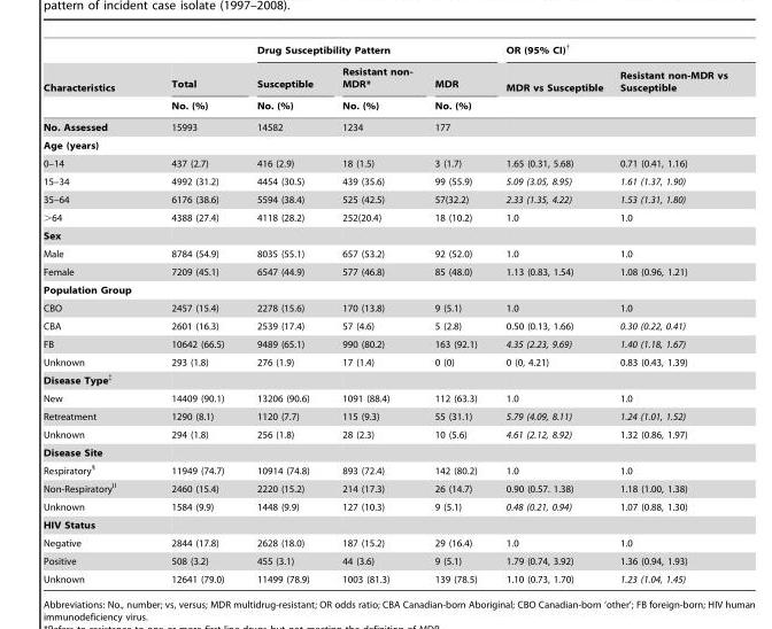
<table><thead><tr><td rowspan="3">Characteristics</td><td rowspan="3">Total No. (%)</td><td colspan="3">Drug Susceptibility Pattern</td><td colspan="2">OR (95% CI)†</td></tr><tr><td rowspan="2">Susceptible No. (%)</td><td rowspan="2">Resistant non- MDR* No. (%)</td><td rowspan="2">MDR No. (%)</td><td rowspan="2">MDR vs Susceptible</td><td rowspan="2">Resistant non-MDR vs Susceptible</td></tr><tr></tr></thead><tbody><tr><td>No. Assessed</td><td>15993</td><td>14582</td><td>1234</td><td>177</td><td></td><td></td></tr><tr><td colspan="7">Age (years)</td></tr><tr><td>0–14</td><td>437 (2.7)</td><td>416 (2.9)</td><td>18 (1.5)</td><td>3 (1.7)</td><td>1.65 (0.31, 5.68)</td><td>0.71 (0.41, 1.16)</td></tr><tr><td>15–34</td><td>4992 (31.2)</td><td>4454 (30.5)</td><td>439 (35.6)</td><td>99 (55.9)</td><td>5.09 (3.05, 8.95)</td><td>1.61 (1.37, 1.90)</td></tr><tr><td>35–64</td><td>6176 (38.6)</td><td>5594 (38.4)</td><td>525 (42.5)</td><td>57(32.2)</td><td>2.33 (1.35, 4.22)</td><td>1.53 (1.31, 1.80)</td></tr><tr><td>&gt;64</td><td>4388 (27.4)</td><td>4118 (28.2)</td><td>252(20.4)</td><td>18 (10.2)</td><td>1.0</td><td>1.0</td></tr><tr><td colspan="7">Sex</td></tr><tr><td>Male</td><td>8784 (54.9)</td><td>8035 (55.1)</td><td>657 (53.2)</td><td>92 (52.0)</td><td>1.0</td><td>1.0</td></tr><tr><td>Female</td><td>7209 (45.1)</td><td>6547 (44.9)</td><td>577 (46.8)</td><td>85 (48.0)</td><td>1.13 (0.83, 1.54)</td><td>1.08 (0.96, 1.21)</td></tr><tr><td colspan="7">Population Group</td></tr><tr><td>CBO</td><td>2457 (15.4)</td><td>2278 (15.6)</td><td>170 (13.8)</td><td>9 (5.1)</td><td>1.0</td><td>1.0</td></tr><tr><td>CBA</td><td>2601 (16.3)</td><td>2539 (17.4)</td><td>57 (4.6)</td><td>5 (2.8)</td><td>0.50 (0.13, 1.66)</td><td>0.30 (0.22, 0.41)</td></tr><tr><td>FB</td><td>10642 (66.5)</td><td>9489 (65.1)</td><td>990 (80.2)</td><td>163 (92.1)</td><td>4.35 (2.23, 9.69)</td><td>1.40 (1.18, 1.67)</td></tr><tr><td>Unknown</td><td>293 (1.8)</td><td>276 (1.9)</td><td>17 (1.4)</td><td>0 (0)</td><td>0 (0, 4.21)</td><td>0.83 (0.43, 1.39)</td></tr><tr><td colspan="7">Disease Type‡</td></tr><tr><td>New</td><td>14409 (90.1)</td><td>13206 (90.6)</td><td>1091 (88.4)</td><td>112 (63.3)</td><td>1.0</td><td>1.0</td></tr><tr><td>Retreatment</td><td>1290 (8.1)</td><td>1120 (7.7)</td><td>115 (9.3)</td><td>55 (31.1)</td><td>5.79 (4.09, 8.11)</td><td>1.24 (1.01, 1.52)</td></tr><tr><td>Unknown</td><td>294 (1.8)</td><td>256 (1.8)</td><td>28 (2.3)</td><td>10 (5.6)</td><td>4.61 (2.12, 8.92)</td><td>1.32 (0.86, 1.97)</td></tr><tr><td colspan="7">Disease Site</td></tr><tr><td>Respiratory§</td><td>11949 (74.7)</td><td>10914 (74.8)</td><td>893 (72.4)</td><td>142 (80.2)</td><td>1.0</td><td>1.0</td></tr><tr><td>Non-Respiratory<sup>II</sup></td><td>2460 (15.4)</td><td>2220 (15.2)</td><td>214 (17.3)</td><td>26 (14.7)</td><td>0.90 (0.57. 1.38)</td><td>1.18 (1.00, 1.38)</td></tr><tr><td>Unknown</td><td>1584 (9.9)</td><td>1448 (9.9)</td><td>127 (10.3)</td><td>9 (5.1)</td><td>0.48 (0.21, 0.94)</td><td>1.07 (0.88, 1.30)</td></tr><tr><td colspan="7">HIV Status</td></tr><tr><td>Negative</td><td>2844 (17.8)</td><td>2628 (18.0)</td><td>187 (15.2)</td><td>29 (16.4)</td><td>1.0</td><td>1.0</td></tr><tr><td>Positive</td><td>508 (3.2)</td><td>455 (3.1)</td><td>44 (3.6)</td><td>9 (5.1)</td><td>1.79 (0.74, 3.92)</td><td>1.36 (0.94, 1.93)</td></tr><tr><td>Unknown</td><td>12641 (79.0)</td><td>11499 (78.9)</td><td>1003 (81.3)</td><td>139 (78.5)</td><td>1.10 (0.73, 1.70)</td><td>1.23 (1.04, 1.45)</td></tr></tbody></table>